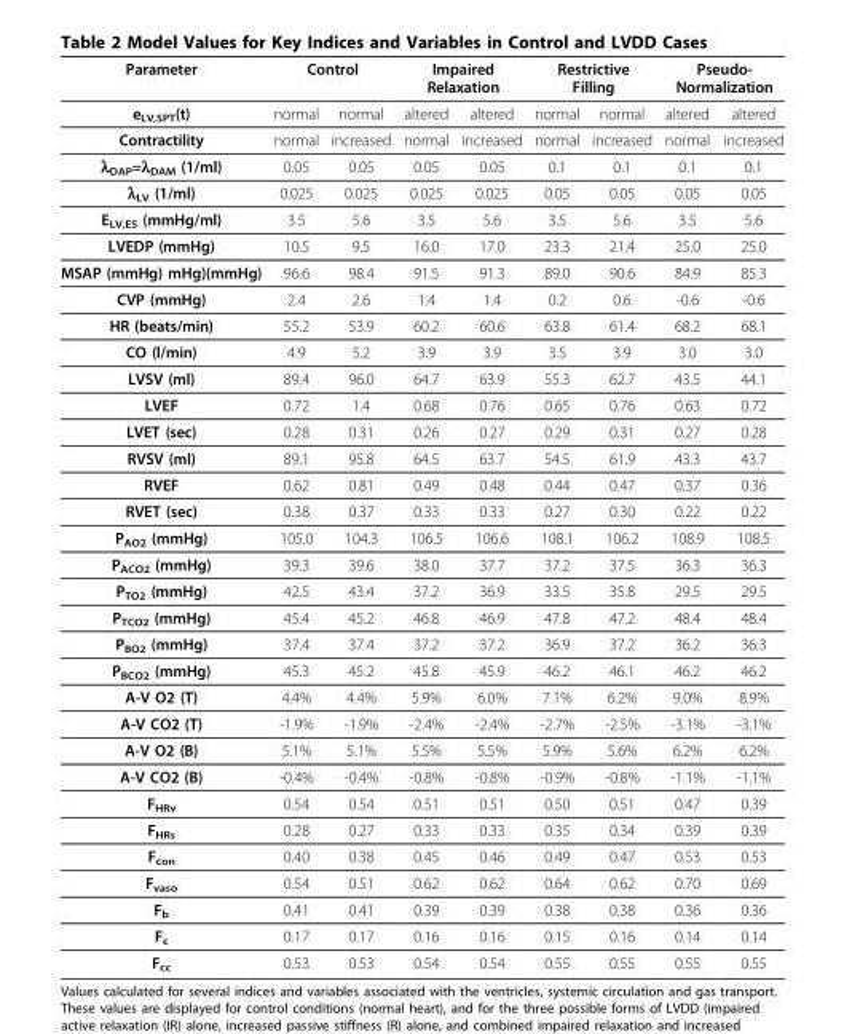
<table><thead><tr><td rowspan="2">Parameter e<sub>LV,SPT</sub>(t)</td><td colspan="2">Control</td><td colspan="2">Impaired Relaxation</td><td colspan="2">Restrictive Filling</td><td colspan="2">Pseudo- Normalization</td></tr><tr><td>normal</td><td>normal</td><td>altered</td><td>altered</td><td>normal</td><td>normal</td><td>altered</td><td>altered</td></tr></thead><tbody><tr><td>Contractility</td><td>normal</td><td>increased</td><td>normal</td><td>increased</td><td>normal</td><td>increased</td><td>normal</td><td>increased</td></tr><tr><td>λ<sub>DAP</sub>=λ<sub>DAM</sub> (1/ml)</td><td>0.05</td><td>0.05</td><td>0.05</td><td>0.05</td><td>0.1</td><td>0.1</td><td>0.1</td><td>0.1</td></tr><tr><td>λ<sub>LV</sub> (1/ml)</td><td>0.025</td><td>0.025</td><td>0.025</td><td>0.025</td><td>0.05</td><td>0.05</td><td>0.05</td><td>0.05</td></tr><tr><td>E<sub>LV,ES</sub> (mmHg/ml)</td><td>3.5</td><td>5.6</td><td>3.5</td><td>5.6</td><td>3.5</td><td>5.6</td><td>3.5</td><td>5.6</td></tr><tr><td>LVEDP (mmHg)</td><td>10.5</td><td>9.5</td><td>16.0</td><td>17.0</td><td>23.3</td><td>21.4</td><td>25.0</td><td>25.0</td></tr><tr><td>MSAP (mmHg) mHg)(mmHg)</td><td>96.6</td><td>98.4</td><td>91.5</td><td>91.3</td><td>89.0</td><td>90.6</td><td>84.9</td><td>85.3</td></tr><tr><td>CVP (mmHg)</td><td>2.4</td><td>2.6</td><td>1.4</td><td>1.4</td><td>0.2</td><td>0.6</td><td>-0.6</td><td>-0.6</td></tr><tr><td>HR (beats/min)</td><td>55.2</td><td>53.9</td><td>60.2</td><td>60.6</td><td>63.8</td><td>61.4</td><td>68.2</td><td>68.1</td></tr><tr><td>CO (l/min)</td><td>4.9</td><td>5.2</td><td>3.9</td><td>3.9</td><td>3.5</td><td>3.9</td><td>3.0</td><td>3.0</td></tr><tr><td>LVSV (ml)</td><td>89.4</td><td>96.0</td><td>64.7</td><td>63.9</td><td>55.3</td><td>62.7</td><td>43.5</td><td>44.1</td></tr><tr><td>LVEF</td><td>0.72</td><td>1.4</td><td>0.68</td><td>0.76</td><td>0.65</td><td>0.76</td><td>0.63</td><td>0.72</td></tr><tr><td>LVET (sec)</td><td>0.28</td><td>0.31</td><td>0.26</td><td>0.27</td><td>0.29</td><td>0.31</td><td>0.27</td><td>0.28</td></tr><tr><td>RVSV (ml)</td><td>89.1</td><td>95.8</td><td>64.5</td><td>63.7</td><td>54.5</td><td>61.9</td><td>43.3</td><td>43.7</td></tr><tr><td>RVEF</td><td>0.62</td><td>0.81</td><td>0.49</td><td>0.48</td><td>0.44</td><td>0.47</td><td>0.37</td><td>0.36</td></tr><tr><td>RVET (sec)</td><td>0.38</td><td>0.37</td><td>0.33</td><td>0.33</td><td>0.27</td><td>0.30</td><td>0.22</td><td>0.22</td></tr><tr><td>P<sub>AO2</sub> (mmHg)</td><td>105.0</td><td>104.3</td><td>106.5</td><td>106.6</td><td>108.1</td><td>106.2</td><td>108.9</td><td>108.5</td></tr><tr><td>P<sub>ACO2</sub> (mmHg)</td><td>39.3</td><td>39.6</td><td>38.0</td><td>37.7</td><td>37.2</td><td>37.5</td><td>36.3</td><td>36.3</td></tr><tr><td>P<sub>TO2</sub> (mmHg)</td><td>42.5</td><td>43.4</td><td>37.2</td><td>36.9</td><td>33.5</td><td>35.8</td><td>29.5</td><td>29.5</td></tr><tr><td>P<sub>TCO2</sub> (mmHg)</td><td>45.4</td><td>45.2</td><td>46.8</td><td>46.9</td><td>47.8</td><td>47.2</td><td>48.4</td><td>48.4</td></tr><tr><td>P<sub>BO2</sub> (mmHg)</td><td>37.4</td><td>37.4</td><td>37.2</td><td>37.2</td><td>36.9</td><td>37.2</td><td>36.2</td><td>36.3</td></tr><tr><td>P<sub>BCO2</sub> (mmHg)</td><td>45.3</td><td>45.2</td><td>45.8</td><td>45.9</td><td>46.2</td><td>46.1</td><td>46.2</td><td>46.2</td></tr><tr><td>A-V O2 (T)</td><td>4.4%</td><td>4.4%</td><td>5.9%</td><td>6.0%</td><td>7.1%</td><td>6.2%</td><td>9.0%</td><td>8.9%</td></tr><tr><td>A-V CO2 (T)</td><td>-1.9%</td><td>-1.9%</td><td>-2.4%</td><td>-2.4%</td><td>-2.7%</td><td>-2.5%</td><td>-3.1%</td><td>-3.1%</td></tr><tr><td>A-V O2 (B)</td><td>5.1%</td><td>5.1%</td><td>5.5%</td><td>5.5%</td><td>5.9%</td><td>5.6%</td><td>6.2%</td><td>6.2%</td></tr><tr><td>A-V CO2 (B)</td><td>-0.4%</td><td>-0.4%</td><td>-0.8%</td><td>-0.8%</td><td>-0.9%</td><td>-0.8%</td><td>-1.1%</td><td>-1.1%</td></tr><tr><td>F<sub>HRv</sub></td><td>0.54</td><td>0.54</td><td>0.51</td><td>0.51</td><td>0.50</td><td>0.51</td><td>0.47</td><td>0.39</td></tr><tr><td>F<sub>HRs</sub></td><td>0.28</td><td>0.27</td><td>0.33</td><td>0.33</td><td>0.35</td><td>0.34</td><td>0.39</td><td>0.39</td></tr><tr><td>F<sub>con</sub></td><td>0.40</td><td>0.38</td><td>0.45</td><td>0.46</td><td>0.49</td><td>0.47</td><td>0.53</td><td>0.53</td></tr><tr><td>F<sub>vaso</sub></td><td>0.54</td><td>0.51</td><td>0.62</td><td>0.62</td><td>0.64</td><td>0.62</td><td>0.70</td><td>0.69</td></tr><tr><td>F<sub>b</sub></td><td>0.41</td><td>0.41</td><td>0.39</td><td>0.39</td><td>0.38</td><td>0.38</td><td>0.36</td><td>0.36</td></tr><tr><td>F<sub>c</sub></td><td>0.17</td><td>0.17</td><td>0.16</td><td>0.16</td><td>0.15</td><td>0.16</td><td>0.14</td><td>0.14</td></tr><tr><td>F<sub>cc</sub></td><td>0.53</td><td>0.53</td><td>0.54</td><td>0.54</td><td>0.55</td><td>0.55</td><td>0.55</td><td>0.55</td></tr></tbody></table>